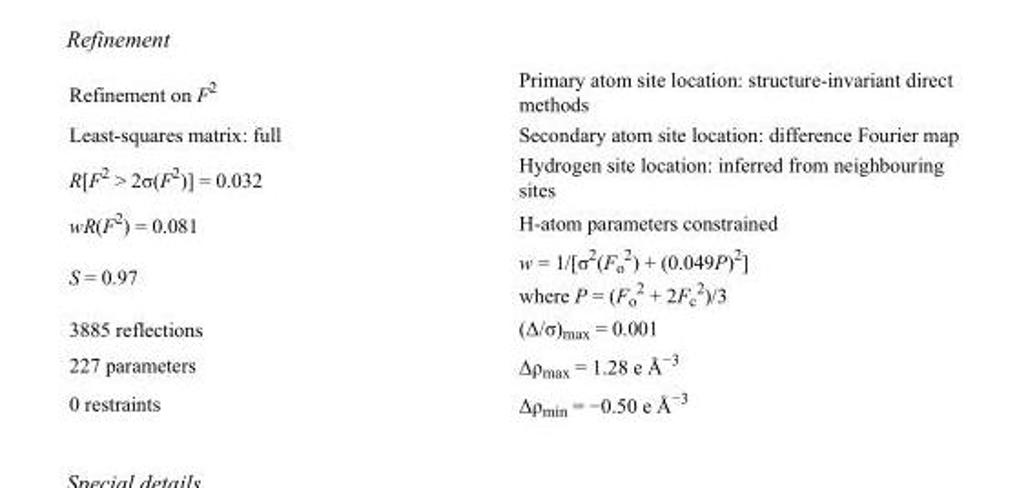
<table><tbody><tr><td>Refinement on F<sup>2</sup></td><td>Primary atom site location: structure-invariant direct methods</td></tr><tr><td>Least-squares matrix: full</td><td>Secondary atom site location: difference Fourier map</td></tr><tr><td>R[F<sup>2</sup> &gt; 2σ(F<sup>2</sup>)] = 0.032</td><td>Hydrogen site location: inferred from neighbouring sites</td></tr><tr><td>wR(F<sup>2</sup>) = 0.081</td><td>H-atom parameters constrained</td></tr><tr><td>S = 0.97</td><td>w = 1/[σ<sup>2</sup>(F<sub>o</sub> <sup>2</sup>) + (0.049P)<sup>2</sup>] where P = (F<sub>o</sub> <sup>2</sup> + 2F<sub>c</sub> <sup>2</sup>)/3</td></tr><tr><td>3885 reflections</td><td>(Δ/σ)<sub>max</sub> = 0.001</td></tr><tr><td>227 parameters</td><td>Δρ<sub>max</sub> = 1.28 e Å<sup>−3</sup></td></tr><tr><td>0 restraints</td><td>Δρ<sub>min</sub> = −0.50 e Å<sup>−3</sup></td></tr></tbody></table>